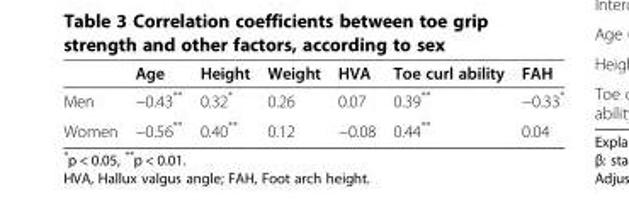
<table><thead><tr><td></td><td>Age</td><td>Height</td><td>Weight</td><td>HVA</td><td>Toe curl ability</td><td>FAH</td></tr></thead><tbody><tr><td>Men</td><td>−0.43**</td><td>0.32*</td><td>0.26</td><td>0.07</td><td>0.39**</td><td>−0.33*</td></tr><tr><td>Women</td><td>−0.56**</td><td>0.40**</td><td>0.12</td><td>−0.08</td><td>0.44**</td><td>0.04</td></tr></tbody></table>